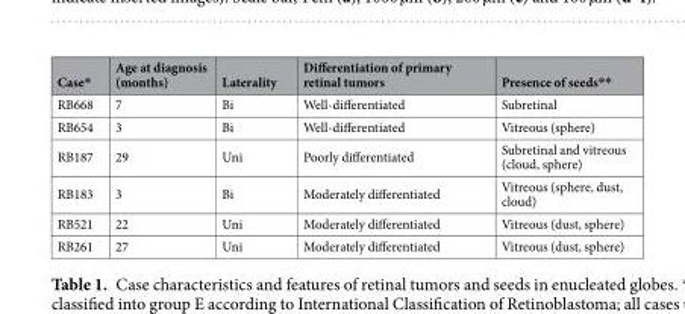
<table><thead><tr><td>Case*</td><td>Age at diagnosis (months)</td><td>Laterality</td><td>Differentiation of primary retinal tumors</td><td>Presence of seeds**</td></tr></thead><tbody><tr><td>RB668</td><td>7</td><td>Bi</td><td>Well-differentiated</td><td>Subretinal</td></tr><tr><td>RB654</td><td>3</td><td>Bi</td><td>Well-differentiated</td><td>Vitreous (sphere)</td></tr><tr><td>RB187</td><td>29</td><td>Uni</td><td>Poorly differentiated</td><td>Subretinal and vitreous (cloud, sphere)</td></tr><tr><td>RB183</td><td>3</td><td>Bi</td><td>Moderately differentiated</td><td>Vitreous (sphere, dust, cloud)</td></tr><tr><td>RB521</td><td>22</td><td>Uni</td><td>Moderately differentiated</td><td>Vitreous (dust, sphere)</td></tr><tr><td>RB261</td><td>27</td><td>Uni</td><td>Moderately differentiated</td><td>Vitreous (dust, sphere)</td></tr></tbody></table>